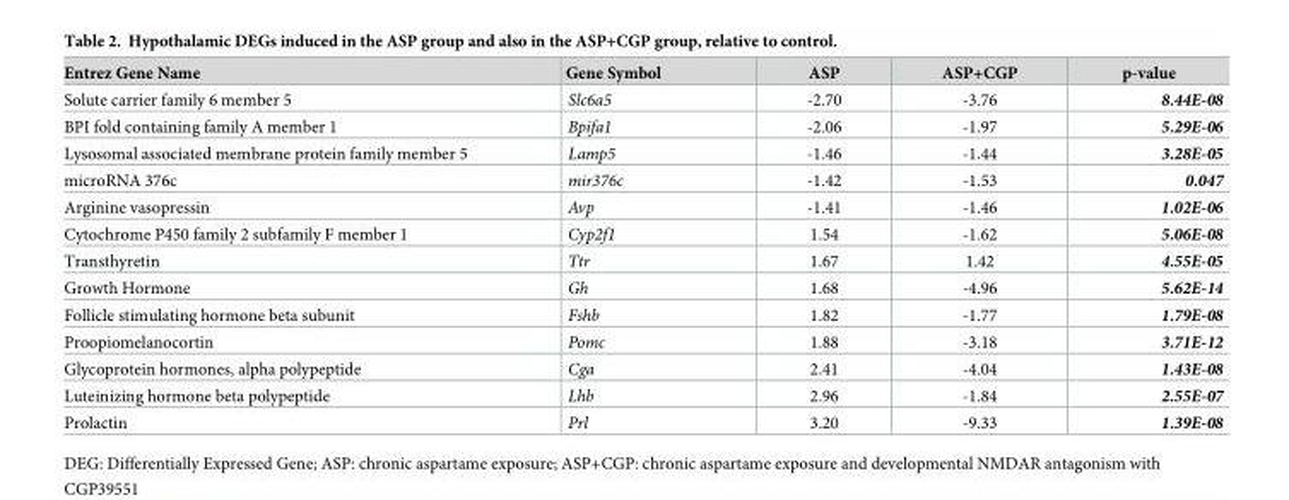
<table><thead><tr><td>Entrez Gene Name</td><td>Gene Symbol</td><td>ASP</td><td>ASP+CGP</td><td>p-value</td></tr></thead><tbody><tr><td>Solute carrier family 6 member 5</td><td>Slc6a5</td><td>-2.70</td><td>-3.76</td><td>8.44E-08</td></tr><tr><td>BPI fold containing family A member 1</td><td>Bpifa1</td><td>-2.06</td><td>-1.97</td><td>5.29E-06</td></tr><tr><td>Lysosomal associated membrane protein family member 5</td><td>Lamp5</td><td>-1.46</td><td>-1.44</td><td>3.28E-05</td></tr><tr><td>microRNA 376c</td><td>mir376c</td><td>-1.42</td><td>-1.53</td><td>0.047</td></tr><tr><td>Arginine vasopressin</td><td>Avp</td><td>-1.41</td><td>-1.46</td><td>1.02E-06</td></tr><tr><td>Cytochrome P450 family 2 subfamily F member 1</td><td>Cyp2f1</td><td>1.54</td><td>-1.62</td><td>5.06E-08</td></tr><tr><td>Transthyretin</td><td>Ttr</td><td>1.67</td><td>1.42</td><td>4.55E-05</td></tr><tr><td>Growth Hormone</td><td>Gh</td><td>1.68</td><td>-4.96</td><td>5.62E-14</td></tr><tr><td>Follicle stimulating hormone beta subunit</td><td>Fshb</td><td>1.82</td><td>-1.77</td><td>1.79E-08</td></tr><tr><td>Proopiomelanocortin</td><td>Pomc</td><td>1.88</td><td>-3.18</td><td>3.71E-12</td></tr><tr><td>Glycoprotein hormones, alpha polypeptide</td><td>Cga</td><td>2.41</td><td>-4.04</td><td>1.43E-08</td></tr><tr><td>Luteinizing hormone beta polypeptide</td><td>Lhb</td><td>2.96</td><td>-1.84</td><td>2.55E-07</td></tr><tr><td>Prolactin</td><td>Prl</td><td>3.20</td><td>-9.33</td><td>1.39E-08</td></tr></tbody></table>